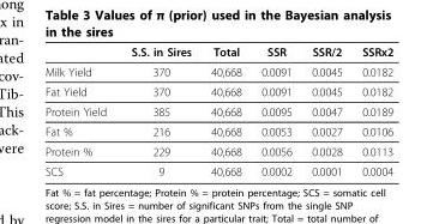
<table><thead><tr><td></td><td>S.S. in Sires</td><td>Total</td><td>SSR</td><td>SSR/2</td><td>SSRx2</td></tr></thead><tbody><tr><td>Milk Yield</td><td>370</td><td>40,668</td><td>0.0091</td><td>0.0045</td><td>0.0182</td></tr><tr><td>Fat Yield</td><td>370</td><td>40,668</td><td>0.0091</td><td>0.0045</td><td>0.0182</td></tr><tr><td>Protein Yield</td><td>385</td><td>40,668</td><td>0.0095</td><td>0.0047</td><td>0.0189</td></tr><tr><td>Fat %</td><td>216</td><td>40,668</td><td>0.0053</td><td>0.0027</td><td>0.0106</td></tr><tr><td>Protein %</td><td>229</td><td>40,668</td><td>0.0056</td><td>0.0028</td><td>0.0113</td></tr><tr><td>SCS</td><td>9</td><td>40,668</td><td>0.0002</td><td>0.0001</td><td>0.0004</td></tr></tbody></table>